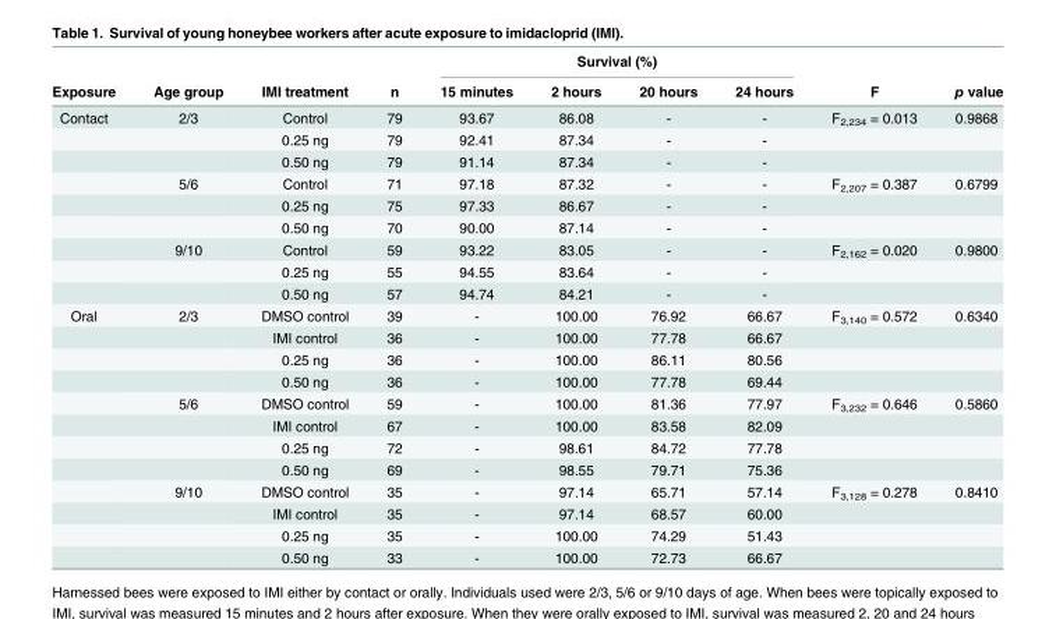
<table><thead><tr><td rowspan="2">Exposure</td><td rowspan="2">Age group</td><td rowspan="2">IMI treatment</td><td rowspan="2">n</td><td colspan="4">Survival (%)</td><td rowspan="2">F</td><td rowspan="2">p value</td></tr><tr><td>15 minutes</td><td>2 hours</td><td>20 hours</td><td>24 hours</td></tr></thead><tbody><tr><td rowspan="9">Contact</td><td>2/3</td><td>Control</td><td>79</td><td>93.67</td><td>86.08</td><td>-</td><td>-</td><td>F<sub>2,234</sub> = 0.013</td><td>0.9868</td></tr><tr><td></td><td>0.25 ng</td><td>79</td><td>92.41</td><td>87.34</td><td>-</td><td>-</td><td></td><td></td></tr><tr><td></td><td>0.50 ng</td><td>79</td><td>91.14</td><td>87.34</td><td>-</td><td>-</td><td></td><td></td></tr><tr><td>5/6</td><td>Control</td><td>71</td><td>97.18</td><td>87.32</td><td>-</td><td>-</td><td>F<sub>2,207</sub> = 0.387</td><td>0.6799</td></tr><tr><td></td><td>0.25 ng</td><td>75</td><td>97.33</td><td>86.67</td><td>-</td><td>-</td><td></td><td></td></tr><tr><td></td><td>0.50 ng</td><td>70</td><td>90.00</td><td>87.14</td><td>-</td><td>-</td><td></td><td></td></tr><tr><td>9/10</td><td>Control</td><td>59</td><td>93.22</td><td>83.05</td><td>-</td><td>-</td><td>F<sub>2,162</sub> = 0.020</td><td>0.9800</td></tr><tr><td></td><td>0.25 ng</td><td>55</td><td>94.55</td><td>83.64</td><td>-</td><td>-</td><td></td><td></td></tr><tr><td></td><td>0.50 ng</td><td>57</td><td>94.74</td><td>84.21</td><td>-</td><td>-</td><td></td><td></td></tr><tr><td rowspan="12">Oral</td><td>2/3</td><td>DMSO control</td><td>39</td><td>-</td><td>100.00</td><td>76.92</td><td>66.67</td><td>F<sub>3,140</sub> = 0.572</td><td>0.6340</td></tr><tr><td></td><td>IMI control</td><td>36</td><td>-</td><td>100.00</td><td>77.78</td><td>66.67</td><td></td><td></td></tr><tr><td></td><td>0.25 ng</td><td>36</td><td>-</td><td>100.00</td><td>86.11</td><td>80.56</td><td></td><td></td></tr><tr><td></td><td>0.50 ng</td><td>36</td><td>-</td><td>100.00</td><td>77.78</td><td>69.44</td><td></td><td></td></tr><tr><td>5/6</td><td>DMSO control</td><td>59</td><td>-</td><td>100.00</td><td>81.36</td><td>77.97</td><td>F<sub>3,232</sub> = 0.646</td><td>0.5860</td></tr><tr><td></td><td>IMI control</td><td>67</td><td>-</td><td>100.00</td><td>83.58</td><td>82.09</td><td></td><td></td></tr><tr><td></td><td>0.25 ng</td><td>72</td><td>-</td><td>98.61</td><td>84.72</td><td>77.78</td><td></td><td></td></tr><tr><td></td><td>0.50 ng</td><td>69</td><td>-</td><td>98.55</td><td>79.71</td><td>75.36</td><td></td><td></td></tr><tr><td>9/10</td><td>DMSO control</td><td>35</td><td>-</td><td>97.14</td><td>65.71</td><td>57.14</td><td>F<sub>3,128</sub> = 0.278</td><td>0.8410</td></tr><tr><td></td><td>IMI control</td><td>35</td><td>-</td><td>97.14</td><td>68.57</td><td>60.00</td><td></td><td></td></tr><tr><td></td><td>0.25 ng</td><td>35</td><td>-</td><td>100.00</td><td>74.29</td><td>51.43</td><td></td><td></td></tr><tr><td></td><td>0.50 ng</td><td>33</td><td>-</td><td>100.00</td><td>72.73</td><td>66.67</td><td></td><td></td></tr></tbody></table>